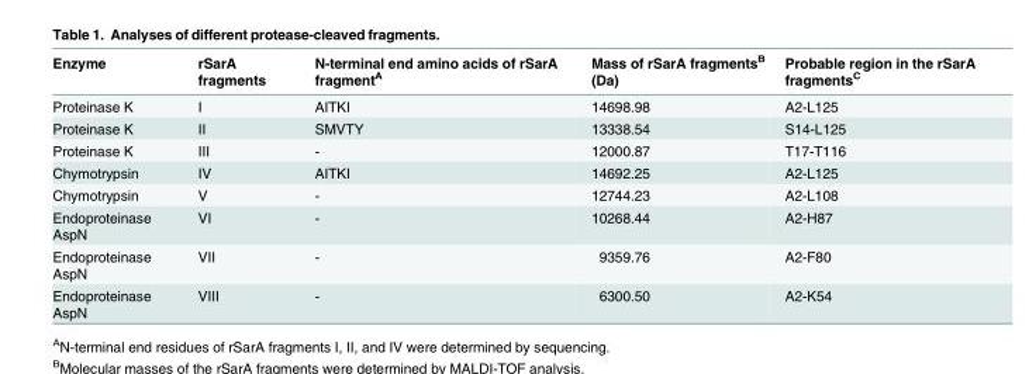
<table><thead><tr><td>Enzyme</td><td>rSarA fragments</td><td>N-terminal end amino acids of rSarA fragment<sup>A</sup></td><td>Mass of rSarA fragments<sup>B</sup> (Da)</td><td>Probable region in the rSarA fragments<sup>C</sup></td></tr></thead><tbody><tr><td>Proteinase K</td><td>I</td><td>AITKI</td><td>14698.98</td><td>A2-L125</td></tr><tr><td>Proteinase K</td><td>II</td><td>SMVTY</td><td>13338.54</td><td>S14-L125</td></tr><tr><td>Proteinase K</td><td>III</td><td>-</td><td>12000.87</td><td>T17-T116</td></tr><tr><td>Chymotrypsin</td><td>IV</td><td>AITKI</td><td>14692.25</td><td>A2-L125</td></tr><tr><td>Chymotrypsin</td><td>V</td><td>-</td><td>12744.23</td><td>A2-L108</td></tr><tr><td>Endoproteinase AspN</td><td>VI</td><td>-</td><td>10268.44</td><td>A2-H87</td></tr><tr><td>Endoproteinase AspN</td><td>VII</td><td>-</td><td>9359.76</td><td>A2-F80</td></tr><tr><td>Endoproteinase AspN</td><td>VIII</td><td>-</td><td>6300.50</td><td>A2-K54</td></tr></tbody></table>